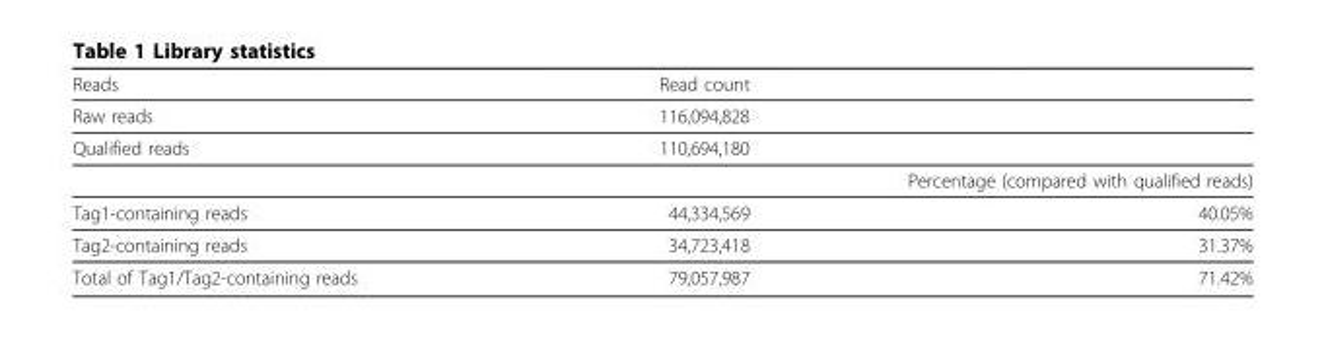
<table><thead><tr><td>Reads</td><td>Read count</td><td></td></tr></thead><tbody><tr><td>Raw reads</td><td>116,094,828</td><td></td></tr><tr><td rowspan="2">Qualified reads</td><td>110,694,180</td><td></td></tr><tr><td></td><td>Percentage (compared with qualified reads)</td></tr><tr><td>Tag1-containing reads</td><td>44,334,569</td><td>40.05%</td></tr><tr><td>Tag2-containing reads</td><td>34,723,418</td><td>31.37%</td></tr><tr><td>Total of Tag1/Tag2-containing reads</td><td>79,057,987</td><td>71.42%</td></tr></tbody></table>